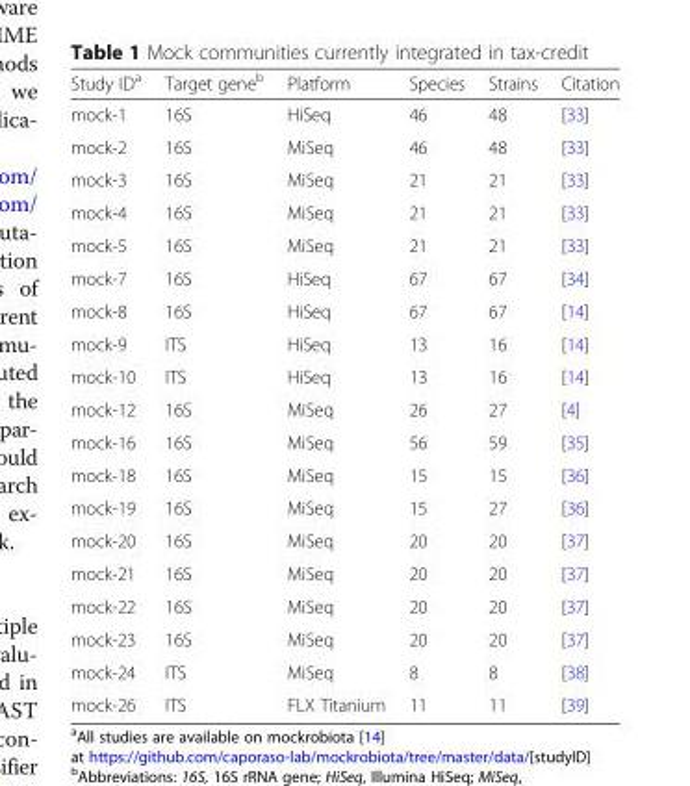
<table><thead><tr><td>Study ID<sup>a</sup></td><td>Target gene<sup>b</sup></td><td>Platform</td><td>Species</td><td>Strains</td><td>Citation</td></tr></thead><tbody><tr><td>mock-1</td><td>16S</td><td>HiSeq</td><td>46</td><td>48</td><td>[33]</td></tr><tr><td>mock-2</td><td>16S</td><td>MiSeq</td><td>46</td><td>48</td><td>[33]</td></tr><tr><td>mock-3</td><td>16S</td><td>MiSeq</td><td>21</td><td>21</td><td>[33]</td></tr><tr><td>mock-4</td><td>16S</td><td>MiSeq</td><td>21</td><td>21</td><td>[33]</td></tr><tr><td>mock-5</td><td>16S</td><td>MiSeq</td><td>21</td><td>21</td><td>[33]</td></tr><tr><td>mock-7</td><td>16S</td><td>HiSeq</td><td>67</td><td>67</td><td>[34]</td></tr><tr><td>mock-8</td><td>16S</td><td>HiSeq</td><td>67</td><td>67</td><td>[14]</td></tr><tr><td>mock-9</td><td>ITS</td><td>HiSeq</td><td>13</td><td>16</td><td>[14]</td></tr><tr><td>mock-10</td><td>ITS</td><td>HiSeq</td><td>13</td><td>16</td><td>[14]</td></tr><tr><td>mock-12</td><td>16S</td><td>MiSeq</td><td>26</td><td>27</td><td>[4]</td></tr><tr><td>mock-16</td><td>16S</td><td>MiSeq</td><td>56</td><td>59</td><td>[35]</td></tr><tr><td>mock-18</td><td>16S</td><td>MiSeq</td><td>15</td><td>15</td><td>[36]</td></tr><tr><td>mock-19</td><td>16S</td><td>MiSeq</td><td>15</td><td>27</td><td>[36]</td></tr><tr><td>mock-20</td><td>16S</td><td>MiSeq</td><td>20</td><td>20</td><td>[37]</td></tr><tr><td>mock-21</td><td>16S</td><td>MiSeq</td><td>20</td><td>20</td><td>[37]</td></tr><tr><td>mock-22</td><td>16S</td><td>MiSeq</td><td>20</td><td>20</td><td>[37]</td></tr><tr><td>mock-23</td><td>16S</td><td>MiSeq</td><td>20</td><td>20</td><td>[37]</td></tr><tr><td>mock-24</td><td>ITS</td><td>MiSeq</td><td>8</td><td>8</td><td>[38]</td></tr><tr><td>mock-26</td><td>ITS</td><td>FLX Titanium</td><td>11</td><td>11</td><td>[39]</td></tr></tbody></table>